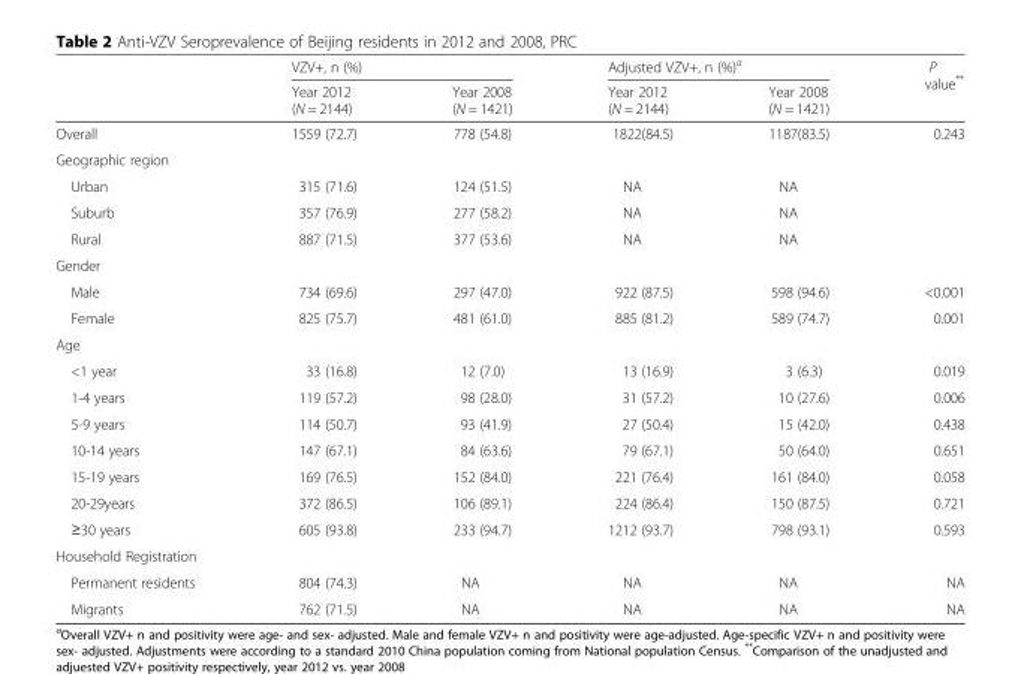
<table><thead><tr><td rowspan="2"></td><td colspan="2">VZV+, n (%)</td><td colspan="2">Adjusted VZV+, n (%)<sup>a</sup></td><td rowspan="2">P value**</td></tr><tr><td>Year 2012 (N = 2144)</td><td>Year 2008 (N = 1421)</td><td>Year 2012 (N = 2144)</td><td>Year 2008 (N = 1421)</td></tr></thead><tbody><tr><td>Overall</td><td>1559 (72.7)</td><td>778 (54.8)</td><td>1822(84.5)</td><td>1187(83.5)</td><td>0.243</td></tr><tr><td colspan="6">Geographic region</td></tr><tr><td>Urban</td><td>315 (71.6)</td><td>124 (51.5)</td><td>NA</td><td>NA</td><td></td></tr><tr><td>Suburb</td><td>357 (76.9)</td><td>277 (58.2)</td><td>NA</td><td>NA</td><td></td></tr><tr><td>Rural</td><td>887 (71.5)</td><td>377 (53.6)</td><td>NA</td><td>NA</td><td></td></tr><tr><td colspan="6">Gender</td></tr><tr><td>Male</td><td>734 (69.6)</td><td>297 (47.0)</td><td>922 (87.5)</td><td>598 (94.6)</td><td>&lt;0.001</td></tr><tr><td>Female</td><td>825 (75.7)</td><td>481 (61.0)</td><td>885 (81.2)</td><td>589 (74.7)</td><td>0.001</td></tr><tr><td colspan="6">Age</td></tr><tr><td>&lt;1 year</td><td>33 (16.8)</td><td>12 (7.0)</td><td>13 (16.9)</td><td>3 (6.3)</td><td>0.019</td></tr><tr><td>1-4 years</td><td>119 (57.2)</td><td>98 (28.0)</td><td>31 (57.2)</td><td>10 (27.6)</td><td>0.006</td></tr><tr><td>5-9 years</td><td>114 (50.7)</td><td>93 (41.9)</td><td>27 (50.4)</td><td>15 (42.0)</td><td>0.438</td></tr><tr><td>10-14 years</td><td>147 (67.1)</td><td>84 (63.6)</td><td>79 (67.1)</td><td>50 (64.0)</td><td>0.651</td></tr><tr><td>15-19 years</td><td>169 (76.5)</td><td>152 (84.0)</td><td>221 (76.4)</td><td>161 (84.0)</td><td>0.058</td></tr><tr><td>20-29years</td><td>372 (86.5)</td><td>106 (89.1)</td><td>224 (86.4)</td><td>150 (87.5)</td><td>0.721</td></tr><tr><td>≥30 years</td><td>605 (93.8)</td><td>233 (94.7)</td><td>1212 (93.7)</td><td>798 (93.1)</td><td>0.593</td></tr><tr><td colspan="6">Household Registration</td></tr><tr><td>Permanent residents</td><td>804 (74.3)</td><td>NA</td><td>NA</td><td>NA</td><td>NA</td></tr><tr><td>Migrants</td><td>762 (71.5)</td><td>NA</td><td>NA</td><td>NA</td><td>NA</td></tr></tbody></table>